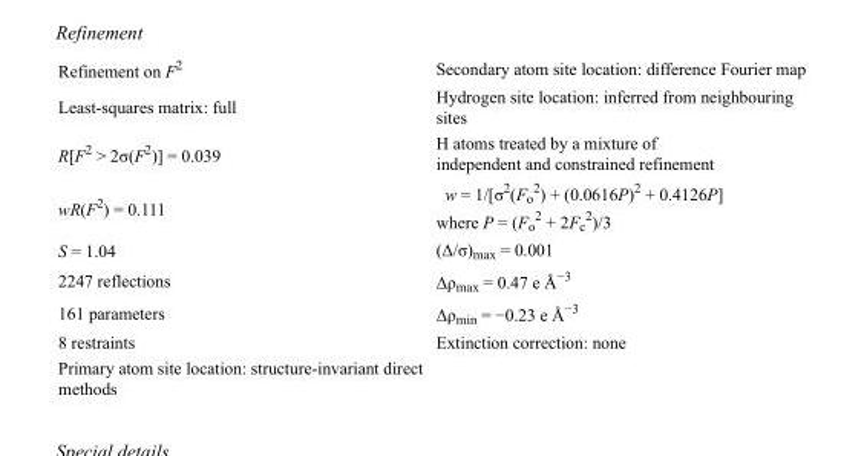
<table><tbody><tr><td>Refinement on F<sup>2</sup></td><td>Secondary atom site location: difference Fourier map</td></tr><tr><td>Least-squares matrix: full</td><td>Hydrogen site location: inferred from neighbouring sites</td></tr><tr><td>R[F<sup>2</sup> &gt; 2σ(F<sup>2</sup>)] = 0.039</td><td>H atoms treated by a mixture of independent and constrained refinement</td></tr><tr><td>wR(F<sup>2</sup>) = 0.111</td><td>w = 1/[σ<sup>2</sup>(F<sub>o</sub> <sup>2</sup>) + (0.0616P)<sup>2</sup> + 0.4126P] where P = (F<sub>o</sub> <sup>2</sup> + 2F<sub>c</sub> <sup>2</sup>)/3</td></tr><tr><td>S = 1.04</td><td>(Δ/σ)<sub>max</sub> = 0.001</td></tr><tr><td>2247 reflections</td><td>Δρ<sub>max</sub> = 0.47 e Å<sup>−3</sup></td></tr><tr><td>161 parameters</td><td>Δρ<sub>min</sub> = −0.23 e Å<sup>−3</sup></td></tr><tr><td>8 restraints</td><td>Extinction correction: none</td></tr><tr><td>Primary atom site location: structure-invariant direct methods</td><td></td></tr></tbody></table>